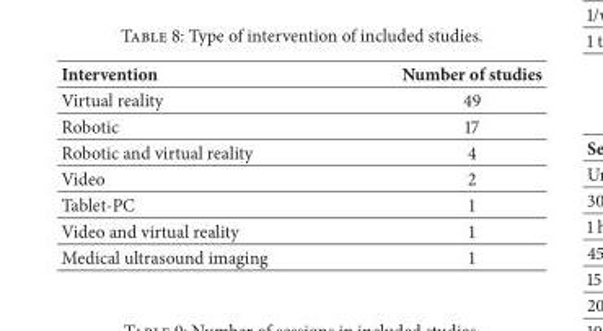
<table><thead><tr><td>Intervention</td><td>Number of studies</td></tr></thead><tbody><tr><td>Virtual reality</td><td>49</td></tr><tr><td>Robotic</td><td>17</td></tr><tr><td>Robotic and virtual reality</td><td>4</td></tr><tr><td>Video</td><td>2</td></tr><tr><td>Tablet-PC</td><td>1</td></tr><tr><td>Video and virtual reality</td><td>1</td></tr><tr><td>Medical ultrasound imaging</td><td>1</td></tr></tbody></table>